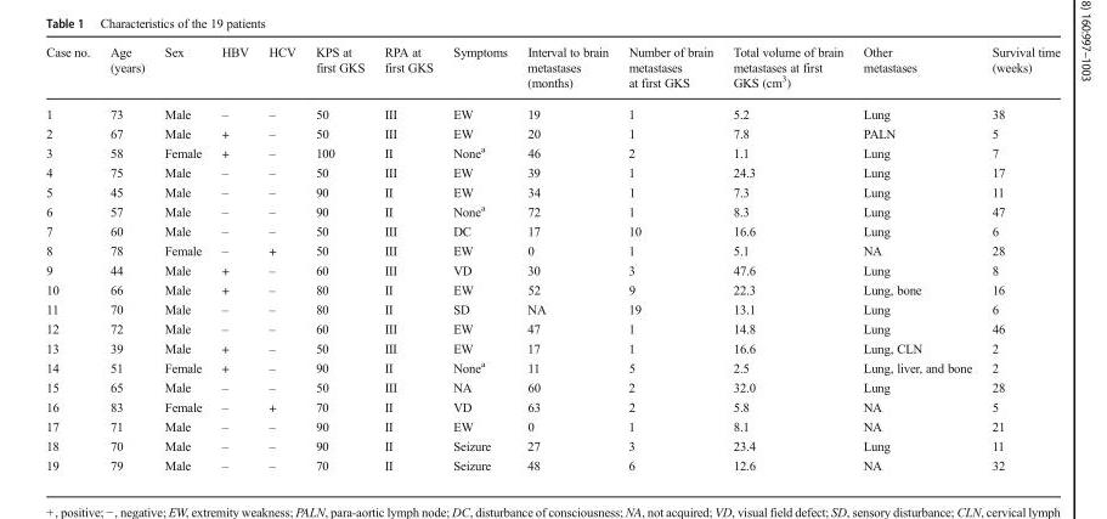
<table><thead><tr><td>Case no.</td><td>Age (years)</td><td>Sex</td><td>HBV</td><td>HCV</td><td>KPS at first GKS</td><td>RPA at first GKS</td><td>Symptoms</td><td>Interval to brain metastases (months)</td><td>Number of brain metastases at first GKS</td><td>Total volume of brain metastases at first GKS (cm<sup>3</sup>)</td><td>Other metastases</td><td>Survival time (weeks)</td></tr></thead><tbody><tr><td>1</td><td>73</td><td>Male</td><td>–</td><td>–</td><td>50</td><td>III</td><td>EW</td><td>19</td><td>1</td><td>5.2</td><td>Lung</td><td>38</td></tr><tr><td>2</td><td>67</td><td>Male</td><td>+</td><td>–</td><td>50</td><td>III</td><td>EW</td><td>20</td><td>1</td><td>7.8</td><td>PALN</td><td>5</td></tr><tr><td>3</td><td>58</td><td>Female</td><td>+</td><td>–</td><td>100</td><td>II</td><td>None<sup>a</sup></td><td>46</td><td>2</td><td>1.1</td><td>Lung</td><td>7</td></tr><tr><td>4</td><td>75</td><td>Male</td><td>–</td><td>–</td><td>50</td><td>III</td><td>EW</td><td>39</td><td>1</td><td>24.3</td><td>Lung</td><td>17</td></tr><tr><td>5</td><td>45</td><td>Male</td><td>–</td><td>–</td><td>90</td><td>II</td><td>EW</td><td>34</td><td>1</td><td>7.3</td><td>Lung</td><td>11</td></tr><tr><td>6</td><td>57</td><td>Male</td><td>–</td><td>–</td><td>90</td><td>II</td><td>None<sup>a</sup></td><td>72</td><td>1</td><td>8.3</td><td>Lung</td><td>47</td></tr><tr><td>7</td><td>60</td><td>Male</td><td>–</td><td>–</td><td>50</td><td>III</td><td>DC</td><td>17</td><td>10</td><td>16.6</td><td>Lung</td><td>6</td></tr><tr><td>8</td><td>78</td><td>Female</td><td>–</td><td>+</td><td>50</td><td>III</td><td>EW</td><td>0</td><td>1</td><td>5.1</td><td>NA</td><td>28</td></tr><tr><td>9</td><td>44</td><td>Male</td><td>+</td><td>–</td><td>60</td><td>III</td><td>VD</td><td>30</td><td>3</td><td>47.6</td><td>Lung</td><td>8</td></tr><tr><td>10</td><td>66</td><td>Male</td><td>+</td><td>–</td><td>80</td><td>II</td><td>EW</td><td>52</td><td>9</td><td>22.3</td><td>Lung, bone</td><td>16</td></tr><tr><td>11</td><td>70</td><td>Male</td><td>–</td><td>–</td><td>80</td><td>II</td><td>SD</td><td>NA</td><td>19</td><td>13.1</td><td>Lung</td><td>6</td></tr><tr><td>12</td><td>72</td><td>Male</td><td>–</td><td>–</td><td>60</td><td>III</td><td>EW</td><td>47</td><td>1</td><td>14.8</td><td>Lung</td><td>46</td></tr><tr><td>13</td><td>39</td><td>Male</td><td>+</td><td>–</td><td>50</td><td>III</td><td>EW</td><td>17</td><td>1</td><td>16.6</td><td>Lung, CLN</td><td>2</td></tr><tr><td>14</td><td>51</td><td>Female</td><td>+</td><td>–</td><td>90</td><td>II</td><td>None<sup>a</sup></td><td>11</td><td>5</td><td>2.5</td><td>Lung, liver, and bone</td><td>2</td></tr><tr><td>15</td><td>65</td><td>Male</td><td>–</td><td>–</td><td>50</td><td>III</td><td>NA</td><td>60</td><td>2</td><td>32.0</td><td>Lung</td><td>28</td></tr><tr><td>16</td><td>83</td><td>Female</td><td>–</td><td>+</td><td>70</td><td>II</td><td>VD</td><td>63</td><td>2</td><td>5.8</td><td>NA</td><td>5</td></tr><tr><td>17</td><td>71</td><td>Male</td><td>–</td><td>–</td><td>90</td><td>II</td><td>EW</td><td>0</td><td>1</td><td>8.1</td><td>NA</td><td>21</td></tr><tr><td>18</td><td>70</td><td>Male</td><td>–</td><td>–</td><td>90</td><td>II</td><td>Seizure</td><td>27</td><td>3</td><td>23.4</td><td>Lung</td><td>11</td></tr><tr><td>19</td><td>79</td><td>Male</td><td>–</td><td>–</td><td>70</td><td>II</td><td>Seizure</td><td>48</td><td>6</td><td>12.6</td><td>NA</td><td>32</td></tr></tbody></table>